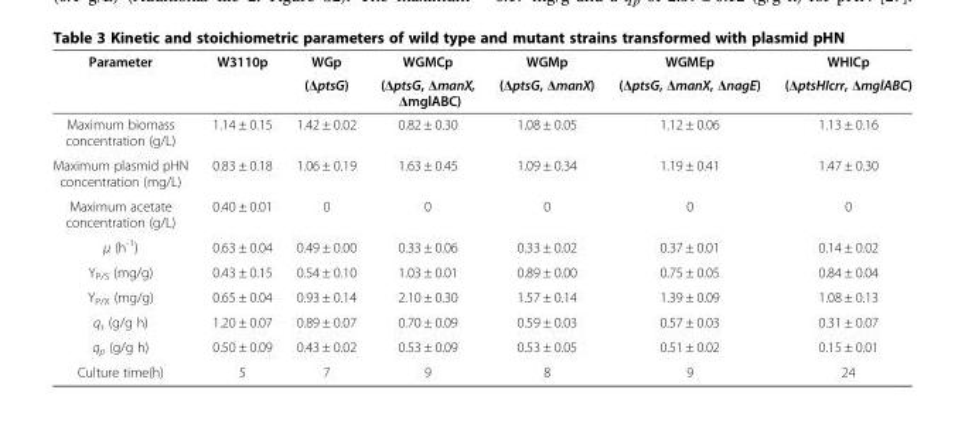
<table><thead><tr><td rowspan="2">Parameter</td><td rowspan="2">W3110p</td><td rowspan="2">WGp (ΔptsG)</td><td rowspan="2">WGMCp (ΔptsG, ΔmanX, ΔmglABC)</td><td rowspan="2">WGMp (ΔptsG, ΔmanX)</td><td rowspan="2">WGMEp (ΔptsG, ΔmanX, ΔnagE)</td><td rowspan="2">WHICp (ΔptsHIcrr, ΔmglABC)</td></tr><tr></tr></thead><tbody><tr><td>Maximum biomass concentration (g/L)</td><td>1.14 ± 0.15</td><td>1.42 ± 0.02</td><td>0.82 ± 0.30</td><td>1.08 ± 0.05</td><td>1.12 ± 0.06</td><td>1.13 ± 0.16</td></tr><tr><td>Maximum plasmid pHN concentration (mg/L)</td><td>0.83 ± 0.18</td><td>1.06 ± 0.19</td><td>1.63 ± 0.45</td><td>1.09 ± 0.34</td><td>1.19 ± 0.41</td><td>1.47 ± 0.30</td></tr><tr><td>Maximum acetate concentration (g/L)</td><td>0.40 ± 0.01</td><td>0</td><td>0</td><td>0</td><td>0</td><td>0</td></tr><tr><td>μ (h<sup>-1</sup>)</td><td>0.63 ± 0.04</td><td>0.49 ± 0.00</td><td>0.33 ± 0.06</td><td>0.33 ± 0.02</td><td>0.37 ± 0.01</td><td>0.14 ± 0.02</td></tr><tr><td>Y<sub>P/S</sub> (mg/g)</td><td>0.43 ± 0.15</td><td>0.54 ± 0.10</td><td>1.03 ± 0.01</td><td>0.89 ± 0.00</td><td>0.75 ± 0.05</td><td>0.84 ± 0.04</td></tr><tr><td>Y<sub>P/X</sub> (mg/g)</td><td>0.65 ± 0.04</td><td>0.93 ± 0.14</td><td>2.10 ± 0.30</td><td>1.57 ± 0.14</td><td>1.39 ± 0.09</td><td>1.08 ± 0.13</td></tr><tr><td>q<sub>s</sub> (g/g h)</td><td>1.20 ± 0.07</td><td>0.89 ± 0.07</td><td>0.70 ± 0.09</td><td>0.59 ± 0.03</td><td>0.57 ± 0.03</td><td>0.31 ± 0.07</td></tr><tr><td>q<sub>p</sub> (g/g h)</td><td>0.50 ± 0.09</td><td>0.43 ± 0.02</td><td>0.53 ± 0.09</td><td>0.53 ± 0.05</td><td>0.51 ± 0.02</td><td>0.15 ± 0.01</td></tr><tr><td>Culture time(h)</td><td>5</td><td>7</td><td>9</td><td>8</td><td>9</td><td>24</td></tr></tbody></table>